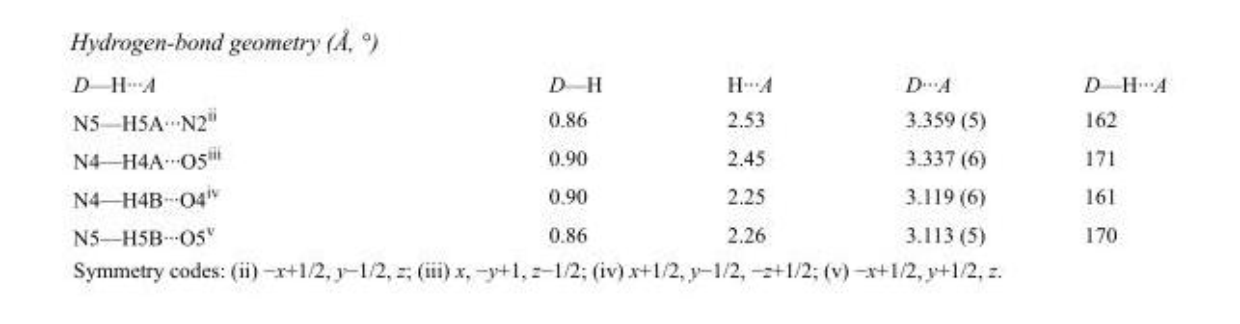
<table><tbody><tr><td>D—H···A</td><td>D—H</td><td>H···A</td><td>D···A</td><td>D—H···A</td></tr><tr><td>N5—H5A···N2<sup>ii</sup></td><td>0.86</td><td>2.53</td><td>3.359 (5)</td><td>162</td></tr><tr><td>N4—H4A···O5<sup>iii</sup></td><td>0.90</td><td>2.45</td><td>3.337 (6)</td><td>171</td></tr><tr><td>N4—H4B···O4<sup>iv</sup></td><td>0.90</td><td>2.25</td><td>3.119 (6)</td><td>161</td></tr><tr><td>N5—H5B···O5<sup>v</sup></td><td>0.86</td><td>2.26</td><td>3.113 (5)</td><td>170</td></tr></tbody></table>